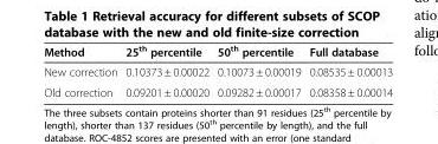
<table><thead><tr><td>Method</td><td>25<sup>th</sup> percentile</td><td>50<sup>th</sup> percentile</td><td>Full database</td></tr></thead><tbody><tr><td>New correction</td><td>0.10373 ± 0.00022</td><td>0.10073 ± 0.00019</td><td>0.08535 ± 0.00013</td></tr><tr><td>Old correction</td><td>0.09201 ± 0.00020</td><td>0.09282 ± 0.00017</td><td>0.08358 ± 0.00014</td></tr></tbody></table>